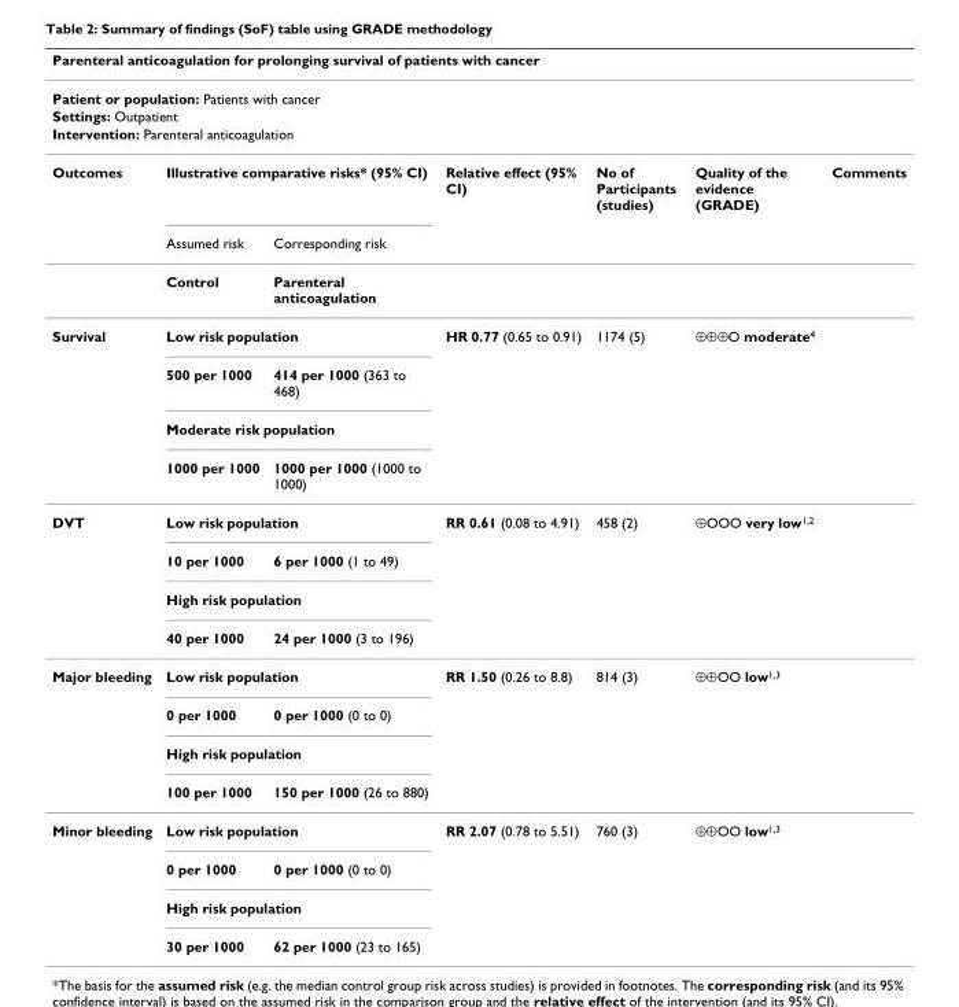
<table><thead><tr><td colspan="7">Parenteral anticoagulation for prolonging survival of patients with cancer</td></tr></thead><tbody><tr><td colspan="7">Patient or population: Patients with cancer</td></tr><tr><td colspan="7">Settings: Outpatient</td></tr><tr><td colspan="7">Intervention: Parenteral anticoagulation</td></tr><tr><td rowspan="3">Outcomes</td><td colspan="2">Illustrative comparative risks* (95% CI)</td><td>Relative effect (95% CI)</td><td>No of Participants (studies)</td><td>Quality of the evidence (GRADE)</td><td>Comments</td></tr><tr><td>Assumed risk</td><td>Corresponding risk</td><td></td><td></td><td></td><td></td></tr><tr><td>Control</td><td>Parenteral anticoagulation</td><td></td><td></td><td></td><td></td></tr><tr><td rowspan="4">Survival</td><td colspan="2">Low risk population</td><td>HR 0.77 (0.65 to 0.91)</td><td>1174 (5)</td><td>⊕⊕⊕O moderate<sup>4</sup></td><td></td></tr><tr><td>500 per 1000</td><td>414 per 1000 (363 to 468)</td><td></td><td></td><td></td><td></td></tr><tr><td colspan="2">Moderate risk population</td><td></td><td></td><td></td><td></td></tr><tr><td>1000 per 1000</td><td>1000 per 1000 (1000 to 1000)</td><td></td><td></td><td></td><td></td></tr><tr><td rowspan="4">DVT</td><td colspan="2">Low risk population</td><td>RR 0.61 (0.08 to 4.91)</td><td>458 (2)</td><td>⊕OOO very low<sup>1,2</sup></td><td></td></tr><tr><td>10 per 1000</td><td>6 per 1000 (1 to 49)</td><td></td><td></td><td></td><td></td></tr><tr><td colspan="2">High risk population</td><td></td><td></td><td></td><td></td></tr><tr><td>40 per 1000</td><td>24 per 1000 (3 to 196)</td><td></td><td></td><td></td><td></td></tr><tr><td rowspan="4">Major bleeding</td><td colspan="2">Low risk population</td><td>RR 1.50 (0.26 to 8.8)</td><td>814 (3)</td><td>⊕⊕OO low<sup>1,3</sup></td><td></td></tr><tr><td>0 per 1000</td><td>0 per 1000 (0 to 0)</td><td></td><td></td><td></td><td></td></tr><tr><td colspan="2">High risk population</td><td></td><td></td><td></td><td></td></tr><tr><td>100 per 1000</td><td>150 per 1000 (26 to 880)</td><td></td><td></td><td></td><td></td></tr><tr><td rowspan="4">Minor bleeding</td><td colspan="2">Low risk population</td><td>RR 2.07 (0.78 to 5.51)</td><td>760 (3)</td><td>⊕⊕OO low<sup>1,3</sup></td><td></td></tr><tr><td>0 per 1000</td><td>0 per 1000 (0 to 0)</td><td></td><td></td><td></td><td></td></tr><tr><td colspan="2">High risk population</td><td></td><td></td><td></td><td></td></tr><tr><td>30 per 1000</td><td>62 per 1000 (23 to 165)</td><td></td><td></td><td></td><td></td></tr></tbody></table>